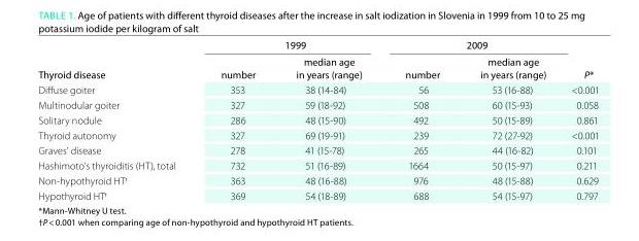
<table><thead><tr><td rowspan="2">thyroid disease</td><td colspan="2">1999</td><td colspan="2">2009</td><td rowspan="2">P*</td></tr><tr><td>number</td><td>median age in years (range)</td><td>number</td><td>median age in years (range)</td></tr></thead><tbody><tr><td>Diffuse goiter</td><td>353</td><td>38 (14-84)</td><td>56</td><td>53 (16-88)</td><td>&lt;0.001</td></tr><tr><td>Multinodular goiter</td><td>327</td><td>59 (18-92)</td><td>508</td><td>60 (15-93)</td><td>0.058</td></tr><tr><td>Solitary nodule</td><td>286</td><td>48 (15-90)</td><td>492</td><td>50 (15-89)</td><td>0.861</td></tr><tr><td>Thyroid autonomy</td><td>327</td><td>69 (19-91)</td><td>239</td><td>72 (27-92)</td><td>&lt;0.001</td></tr><tr><td>Graves’ disease</td><td>278</td><td>41 (15-78)</td><td>265</td><td>44 (16-82)</td><td>0.101</td></tr><tr><td>Hashimoto’s thyroiditis (HT), total</td><td>732</td><td>51 (16-89)</td><td>1664</td><td>50 (15-97)</td><td>0.211</td></tr><tr><td>Non-hypothyroid HT<sup>†</sup></td><td>363</td><td>48 (16-88)</td><td>976</td><td>48 (15-88)</td><td>0.629</td></tr><tr><td>Hypothyroid HT<sup>†</sup></td><td>369</td><td>54 (18-89)</td><td>688</td><td>54 (15-97)</td><td>0.797</td></tr></tbody></table>